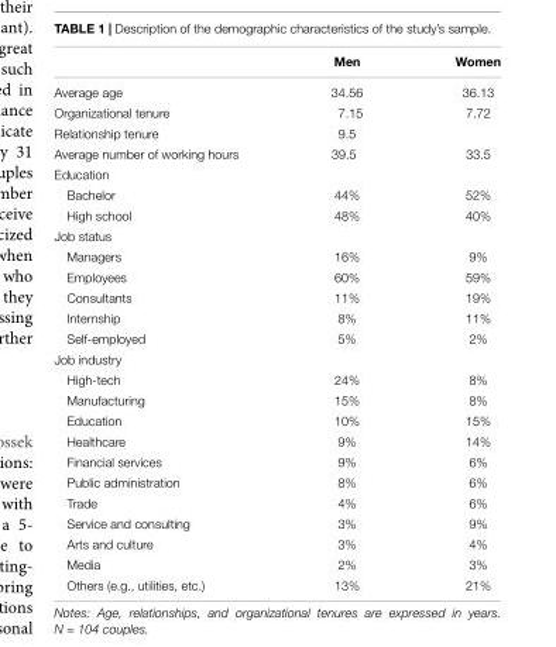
<table><thead><tr><td></td><td>Men</td><td>Women</td></tr></thead><tbody><tr><td>Average age</td><td>34.56</td><td>36.13</td></tr><tr><td>Organizational tenure</td><td>7.15</td><td>7.72</td></tr><tr><td>Relationship tenure</td><td>9.5</td><td></td></tr><tr><td>Average number of working hours</td><td>39.5</td><td>33.5</td></tr><tr><td colspan="3">Education</td></tr><tr><td>Bachelor</td><td>44%</td><td>52%</td></tr><tr><td>High school</td><td>48%</td><td>40%</td></tr><tr><td colspan="3">Job status</td></tr><tr><td>Managers</td><td>16%</td><td>9%</td></tr><tr><td>Employees</td><td>60%</td><td>59%</td></tr><tr><td>Consultants</td><td>11%</td><td>19%</td></tr><tr><td>Internship</td><td>8%</td><td>11%</td></tr><tr><td>Self-employed</td><td>5%</td><td>2%</td></tr><tr><td colspan="3">Job industry</td></tr><tr><td>High-tech</td><td>24%</td><td>8%</td></tr><tr><td>Manufacturing</td><td>15%</td><td>8%</td></tr><tr><td>Education</td><td>10%</td><td>15%</td></tr><tr><td>Healthcare</td><td>9%</td><td>14%</td></tr><tr><td>Financial services</td><td>9%</td><td>6%</td></tr><tr><td>Public administration</td><td>8%</td><td>6%</td></tr><tr><td>Trade</td><td>4%</td><td>6%</td></tr><tr><td>Service and consulting</td><td>3%</td><td>9%</td></tr><tr><td>Arts and culture</td><td>3%</td><td>4%</td></tr><tr><td>Media</td><td>2%</td><td>3%</td></tr><tr><td>Others (e.g., utilities, etc.)</td><td>13%</td><td>21%</td></tr></tbody></table>